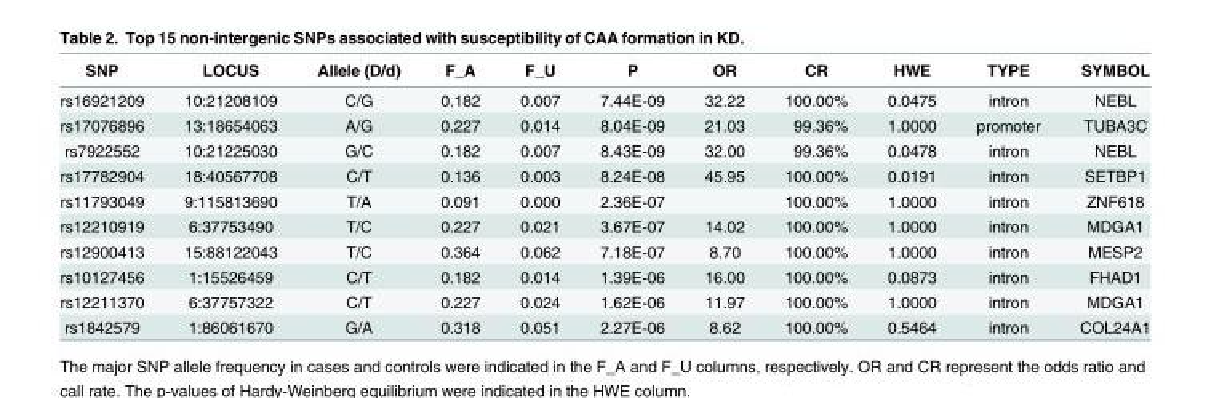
<table><thead><tr><td>SNP</td><td>LOCUS</td><td>Allele (D/d)</td><td>F_A</td><td>F_U</td><td>P</td><td>OR</td><td>CR</td><td>HWE</td><td>TYPE</td><td>SYMBOL</td></tr></thead><tbody><tr><td>rs16921209</td><td>10:21208109</td><td>C/G</td><td>0.182</td><td>0.007</td><td>7.44E-09</td><td>32.22</td><td>100.00%</td><td>0.0475</td><td>intron</td><td>NEBL</td></tr><tr><td>rs17076896</td><td>13:18654063</td><td>A/G</td><td>0.227</td><td>0.014</td><td>8.04E-09</td><td>21.03</td><td>99.36%</td><td>1.0000</td><td>promoter</td><td>TUBA3C</td></tr><tr><td>rs7922552</td><td>10:21225030</td><td>G/C</td><td>0.182</td><td>0.007</td><td>8.43E-09</td><td>32.00</td><td>99.36%</td><td>0.0478</td><td>intron</td><td>NEBL</td></tr><tr><td>rs17782904</td><td>18:40567708</td><td>C/T</td><td>0.136</td><td>0.003</td><td>8.24E-08</td><td>45.95</td><td>100.00%</td><td>0.0191</td><td>intron</td><td>SETBP1</td></tr><tr><td>rs11793049</td><td>9:115813690</td><td>T/A</td><td>0.091</td><td>0.000</td><td>2.36E-07</td><td></td><td>100.00%</td><td>1.0000</td><td>intron</td><td>ZNF618</td></tr><tr><td>rs12210919</td><td>6:37753490</td><td>T/C</td><td>0.227</td><td>0.021</td><td>3.67E-07</td><td>14.02</td><td>100.00%</td><td>1.0000</td><td>intron</td><td>MDGA1</td></tr><tr><td>rs12900413</td><td>15:88122043</td><td>T/C</td><td>0.364</td><td>0.062</td><td>7.18E-07</td><td>8.70</td><td>100.00%</td><td>1.0000</td><td>intron</td><td>MESP2</td></tr><tr><td>rs10127456</td><td>1:15526459</td><td>C/T</td><td>0.182</td><td>0.014</td><td>1.39E-06</td><td>16.00</td><td>100.00%</td><td>0.0873</td><td>intron</td><td>FHAD1</td></tr><tr><td>rs12211370</td><td>6:37757322</td><td>C/T</td><td>0.227</td><td>0.024</td><td>1.62E-06</td><td>11.97</td><td>100.00%</td><td>1.0000</td><td>intron</td><td>MDGA1</td></tr><tr><td>rs1842579</td><td>1:86061670</td><td>G/A</td><td>0.318</td><td>0.051</td><td>2.27E-06</td><td>8.62</td><td>100.00%</td><td>0.5464</td><td>intron</td><td>COL24A1</td></tr></tbody></table>